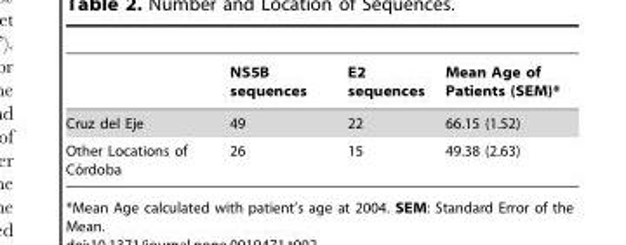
<table><thead><tr><td></td><td>NS5B sequences</td><td>E2 sequences</td><td>Mean Age of Patients (SEM)*</td></tr></thead><tbody><tr><td>Cruz del Eje</td><td>49</td><td>22</td><td>66.15 (1.52)</td></tr><tr><td>Other Locations of Co´rdoba</td><td>26</td><td>15</td><td>49.38 (2.63)</td></tr></tbody></table>